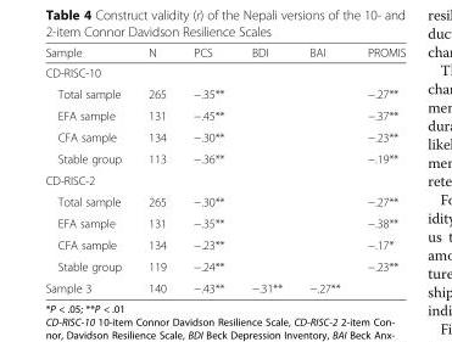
<table><thead><tr><td>Sample</td><td>N</td><td>PCS</td><td>BDI</td><td>BAI</td><td>PROMIS</td></tr></thead><tbody><tr><td colspan="6">CD-RISC-10</td></tr><tr><td>Total sample</td><td>265</td><td>−.35**</td><td></td><td></td><td>−.27**</td></tr><tr><td>EFA sample</td><td>131</td><td>−.45**</td><td></td><td></td><td>−.37**</td></tr><tr><td>CFA sample</td><td>134</td><td>−.30**</td><td></td><td></td><td>−.23**</td></tr><tr><td>Stable group</td><td>113</td><td>−.36**</td><td></td><td></td><td>−.19**</td></tr><tr><td colspan="6">CD-RISC-2</td></tr><tr><td>Total sample</td><td>265</td><td>−.30**</td><td></td><td></td><td>−.27**</td></tr><tr><td>EFA sample</td><td>131</td><td>−.35**</td><td></td><td></td><td>−.38**</td></tr><tr><td>CFA sample</td><td>134</td><td>−.23**</td><td></td><td></td><td>−.17*</td></tr><tr><td>Stable group</td><td>119</td><td>−.24**</td><td></td><td></td><td>−.23**</td></tr><tr><td>Sample 3</td><td>140</td><td>−.43**</td><td>−.31**</td><td>−.27**</td><td></td></tr></tbody></table>